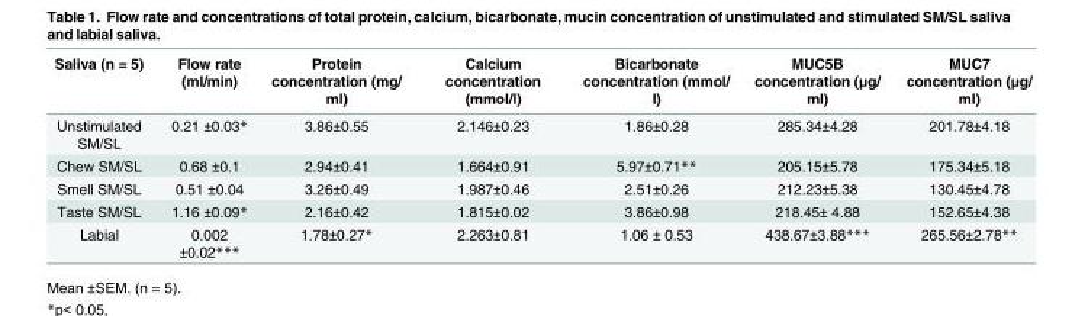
<table><thead><tr><td>Saliva (n = 5)</td><td>Flow rate (ml/min)</td><td>Protein concentration (mg/ ml)</td><td>Calcium concentration (mmol/l)</td><td>Bicarbonate concentration (mmol/ l)</td><td>MUC5B concentration (μg/ ml)</td><td>MUC7 concentration (μg/ ml)</td></tr></thead><tbody><tr><td>Unstimulated SM/SL</td><td>0.21 ±0.03*</td><td>3.86±0.55</td><td>2.146±0.23</td><td>1.86±0.28</td><td>285.34±4.28</td><td>201.78±4.18</td></tr><tr><td>Chew SM/SL</td><td>0.68 ±0.1</td><td>2.94±0.41</td><td>1.664±0.91</td><td>5.97±0.71**</td><td>205.15±5.78</td><td>175.34±5.18</td></tr><tr><td>Smell SM/SL</td><td>0.51 ±0.04</td><td>3.26±0.49</td><td>1.987±0.46</td><td>2.51±0.26</td><td>212.23±5.38</td><td>130.45±4.78</td></tr><tr><td>Taste SM/SL</td><td>1.16 ±0.09*</td><td>2.16±0.42</td><td>1.815±0.02</td><td>3.86±0.98</td><td>218.45± 4.88</td><td>152.65±4.38</td></tr><tr><td>Labial</td><td>0.002 ±0.02***</td><td>1.78±0.27*</td><td>2.263±0.81</td><td>1.06 ± 0.53</td><td>438.67±3.88***</td><td>265.56±2.78**</td></tr></tbody></table>